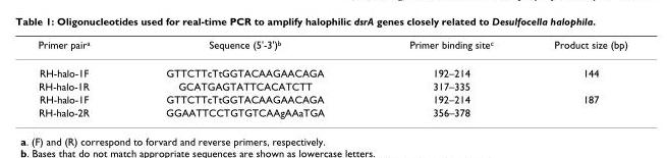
<table><thead><tr><td>Primer pair<sup>a</sup></td><td>Sequence (5&#x27;-3&#x27;)<sup>b</sup></td><td>Primer binding site<sup>c</sup></td><td>Product size (bp)</td></tr></thead><tbody><tr><td>RH-halo-1F</td><td>GTTCTTcTtGGTACAAGAACAGA</td><td>192–214</td><td>144</td></tr><tr><td>RH-halo-1R</td><td>GCATGAGTATTCACATCTT</td><td>317–335</td><td></td></tr><tr><td>RH-halo-1F</td><td>GTTCTTcTtGGTACAAGAACAGA</td><td>192–214</td><td>187</td></tr><tr><td>RH-halo-2R</td><td>GGAATTCCTGTGTCAAgAAaTGA</td><td>356–378</td><td></td></tr></tbody></table>